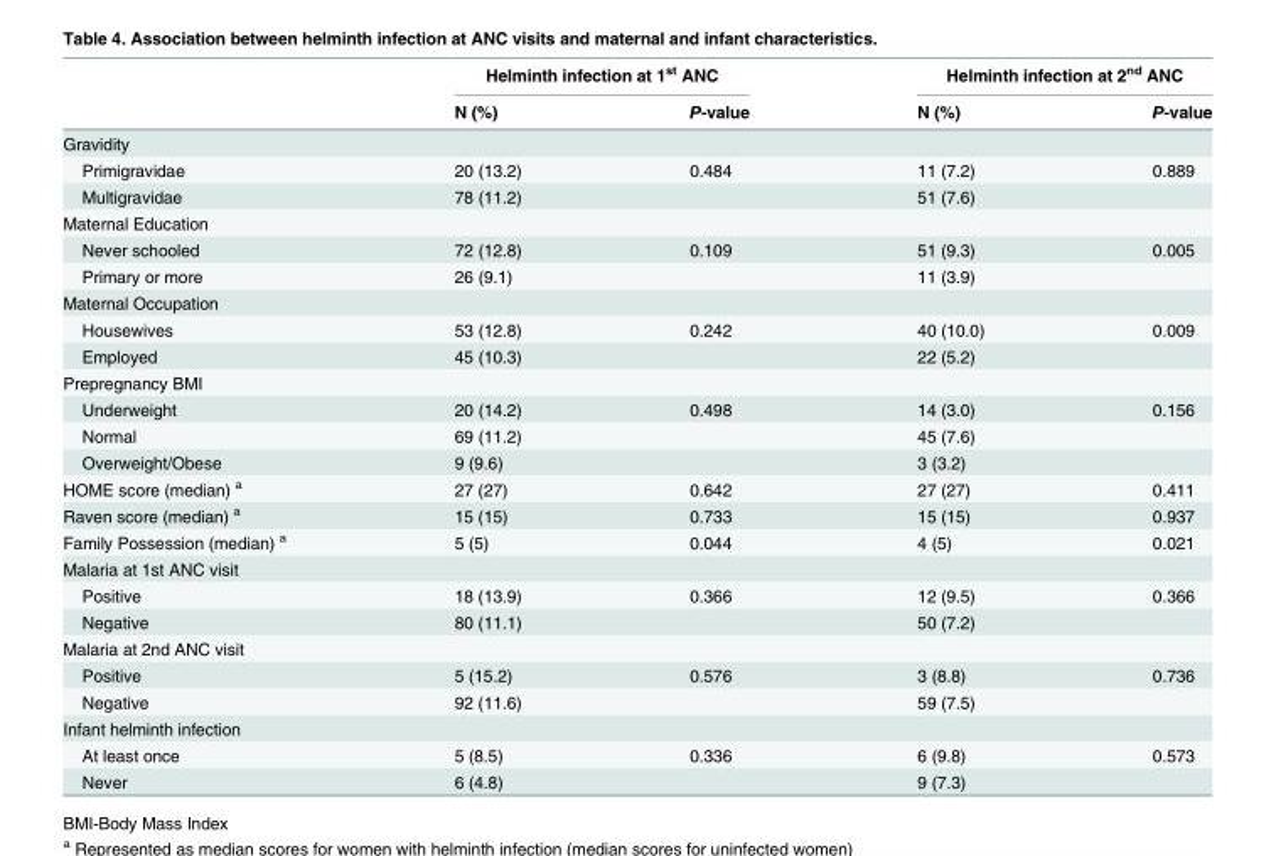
<table><thead><tr><td rowspan="2"></td><td colspan="2">Helminth infection at 1<sup>st</sup> ANC</td><td colspan="2">Helminth infection at 2<sup>nd</sup> ANC</td></tr><tr><td>N (%)</td><td>P-value</td><td>N (%)</td><td>P-value</td></tr></thead><tbody><tr><td colspan="5">Gravidity</td></tr><tr><td>Primigravidae</td><td>20 (13.2)</td><td>0.484</td><td>11 (7.2)</td><td>0.889</td></tr><tr><td>Multigravidae</td><td>78 (11.2)</td><td></td><td>51 (7.6)</td><td></td></tr><tr><td colspan="5">Maternal Education</td></tr><tr><td>Never schooled</td><td>72 (12.8)</td><td>0.109</td><td>51 (9.3)</td><td>0.005</td></tr><tr><td>Primary or more</td><td>26 (9.1)</td><td></td><td>11 (3.9)</td><td></td></tr><tr><td colspan="5">Maternal Occupation</td></tr><tr><td>Housewives</td><td>53 (12.8)</td><td>0.242</td><td>40 (10.0)</td><td>0.009</td></tr><tr><td>Employed</td><td>45 (10.3)</td><td></td><td>22 (5.2)</td><td></td></tr><tr><td colspan="5">Prepregnancy BMI</td></tr><tr><td>Underweight</td><td>20 (14.2)</td><td>0.498</td><td>14 (3.0)</td><td>0.156</td></tr><tr><td>Normal</td><td>69 (11.2)</td><td></td><td>45 (7.6)</td><td></td></tr><tr><td>Overweight/Obese</td><td>9 (9.6)</td><td></td><td>3 (3.2)</td><td></td></tr><tr><td>HOME score (median) <sup>a</sup></td><td>27 (27)</td><td>0.642</td><td>27 (27)</td><td>0.411</td></tr><tr><td>Raven score (median) <sup>a</sup></td><td>15 (15)</td><td>0.733</td><td>15 (15)</td><td>0.937</td></tr><tr><td>Family Possession (median) <sup>a</sup></td><td>5 (5)</td><td>0.044</td><td>4 (5)</td><td>0.021</td></tr><tr><td colspan="5">Malaria at 1st ANC visit</td></tr><tr><td>Positive</td><td>18 (13.9)</td><td>0.366</td><td>12 (9.5)</td><td>0.366</td></tr><tr><td>Negative</td><td>80 (11.1)</td><td></td><td>50 (7.2)</td><td></td></tr><tr><td colspan="5">Malaria at 2nd ANC visit</td></tr><tr><td>Positive</td><td>5 (15.2)</td><td>0.576</td><td>3 (8.8)</td><td>0.736</td></tr><tr><td>Negative</td><td>92 (11.6)</td><td></td><td>59 (7.5)</td><td></td></tr><tr><td colspan="5">Infant helminth infection</td></tr><tr><td>At least once</td><td>5 (8.5)</td><td>0.336</td><td>6 (9.8)</td><td>0.573</td></tr><tr><td>Never</td><td>6 (4.8)</td><td></td><td>9 (7.3)</td><td></td></tr></tbody></table>